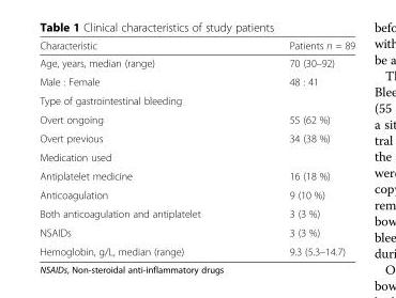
<table><thead><tr><td>Characteristic</td><td>Patients n = 89</td></tr></thead><tbody><tr><td>Age, years, median (range)</td><td>70 (30–92)</td></tr><tr><td>Male : Female</td><td>48 : 41</td></tr><tr><td colspan="2">Type of gastrointestinal bleeding</td></tr><tr><td>Overt ongoing</td><td>55 (62 %)</td></tr><tr><td>Overt previous</td><td>34 (38 %)</td></tr><tr><td colspan="2">Medication used</td></tr><tr><td>Antiplatelet medicine</td><td>16 (18 %)</td></tr><tr><td>Anticoagulation</td><td>9 (10 %)</td></tr><tr><td>Both anticoagulation and antiplatelet</td><td>3 (3 %)</td></tr><tr><td>NSAIDs</td><td>3 (3 %)</td></tr><tr><td>Hemoglobin, g/L, median (range)</td><td>9.3 (5.3–14.7)</td></tr></tbody></table>